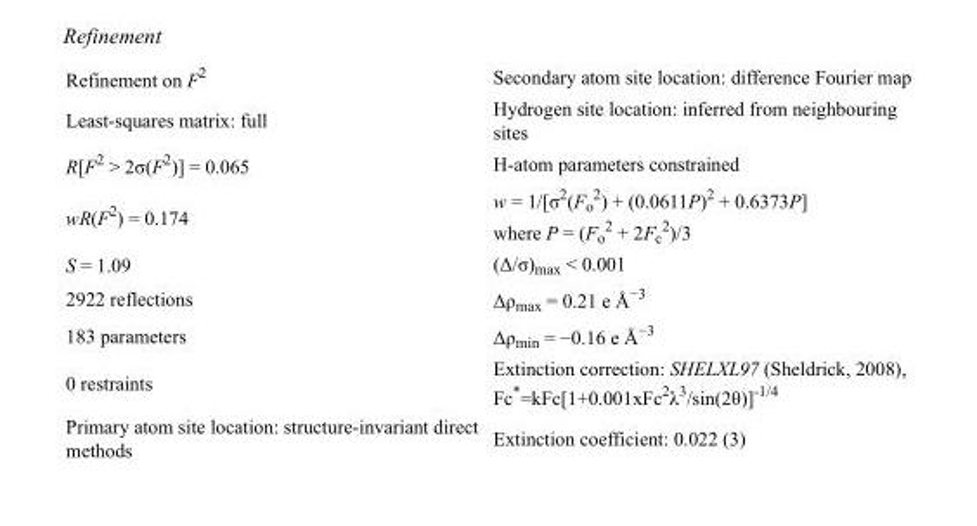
<table><tbody><tr><td>Refinement on F<sup>2</sup></td><td>Secondary atom site location: difference Fourier map</td></tr><tr><td>Least-squares matrix: full</td><td>Hydrogen site location: inferred from neighbouring sites</td></tr><tr><td>R[F<sup>2</sup> &gt; 2σ(F<sup>2</sup>)] = 0.065</td><td>H-atom parameters constrained</td></tr><tr><td>wR(F<sup>2</sup>) = 0.174</td><td>w = 1/[σ<sup>2</sup>(F<sub>o</sub> <sup>2</sup>) + (0.0611P)<sup>2</sup> + 0.6373P] where P = (F<sub>o</sub> <sup>2</sup> + 2F<sub>c</sub> <sup>2</sup>)/3</td></tr><tr><td>S = 1.09</td><td>(Δ/σ)<sub>max</sub> &lt; 0.001</td></tr><tr><td>2922 reflections</td><td>Δρ<sub>max</sub> = 0.21 e Å<sup>−3</sup></td></tr><tr><td>183 parameters</td><td>Δρ<sub>min</sub> = −0.16 e Å<sup>−3</sup></td></tr><tr><td>0 restraints</td><td>Extinction correction: SHELXL97 (Sheldrick, 2008), Fc*=kFc[1+0.001xFc<sup>2</sup>λ<sup>3</sup>/sin(2θ)]<sup>-1/4</sup></td></tr><tr><td>Primary atom site location: structure-invariant direct methods</td><td>Extinction coefficient: 0.022 (3)</td></tr></tbody></table>